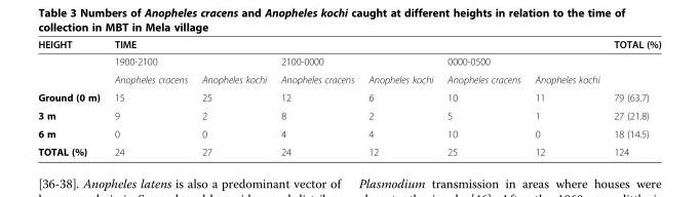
<table><thead><tr><td rowspan="3">HEIGHT</td><td colspan="6">TIME</td><td rowspan="3">TOTAL (%)</td></tr><tr><td colspan="2">1900-2100</td><td colspan="2">2100-0000</td><td colspan="2">0000-0500</td></tr><tr><td>Anopheles cracens</td><td>Anopheles kochi</td><td>Anopheles cracens</td><td>Anopheles kochi</td><td>Anopheles cracens</td><td>Anopheles kochi</td></tr></thead><tbody><tr><td>Ground (0 m)</td><td>15</td><td>25</td><td>12</td><td>6</td><td>10</td><td>11</td><td>79 (63.7)</td></tr><tr><td>3 m</td><td>9</td><td>2</td><td>8</td><td>2</td><td>5</td><td>1</td><td>27 (21.8)</td></tr><tr><td>6 m</td><td>0</td><td>0</td><td>4</td><td>4</td><td>10</td><td>0</td><td>18 (14.5)</td></tr><tr><td>TOTAL (%)</td><td>24</td><td>27</td><td>24</td><td>12</td><td>25</td><td>12</td><td>124</td></tr></tbody></table>